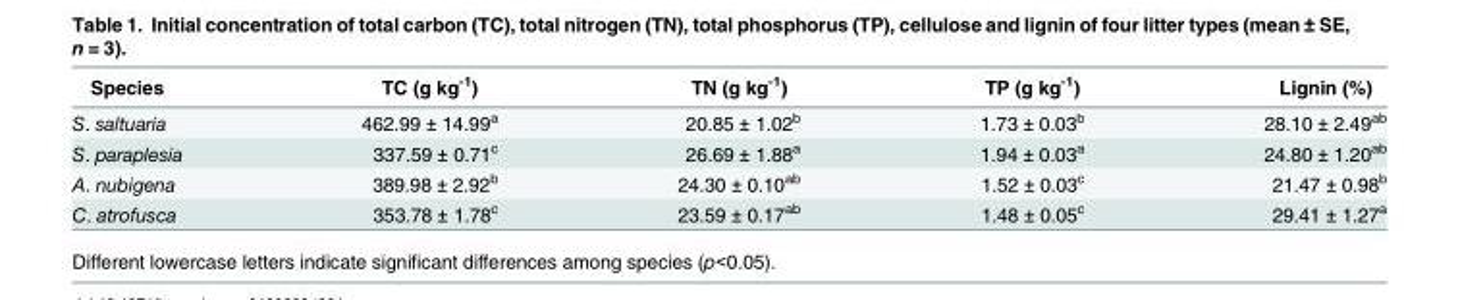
<table><thead><tr><td>Species</td><td>TC (g kg<sup>-1</sup>)</td><td>TN (g kg<sup>-1</sup>)</td><td>TP (g kg<sup>-1</sup>)</td><td>Lignin (%)</td></tr></thead><tbody><tr><td>S. saltuaria</td><td>462.99 ± 14.99<sup>a</sup></td><td>20.85 ± 1.02<sup>b</sup></td><td>1.73 ± 0.03<sup>b</sup></td><td>28.10 ± 2.49<sup>ab</sup></td></tr><tr><td>S. paraplesia</td><td>337.59 ± 0.71<sup>c</sup></td><td>26.69 ± 1.88<sup>a</sup></td><td>1.94 ± 0.03<sup>a</sup></td><td>24.80 ± 1.20<sup>ab</sup></td></tr><tr><td>A. nubigena</td><td>389.98 ± 2.92<sup>b</sup></td><td>24.30 ± 0.10<sup>ab</sup></td><td>1.52 ± 0.03<sup>c</sup></td><td>21.47 ± 0.98<sup>b</sup></td></tr><tr><td>C. atrofusca</td><td>353.78 ± 1.78<sup>c</sup></td><td>23.59 ± 0.17<sup>ab</sup></td><td>1.48 ± 0.05<sup>c</sup></td><td>29.41 ± 1.27<sup>a</sup></td></tr></tbody></table>